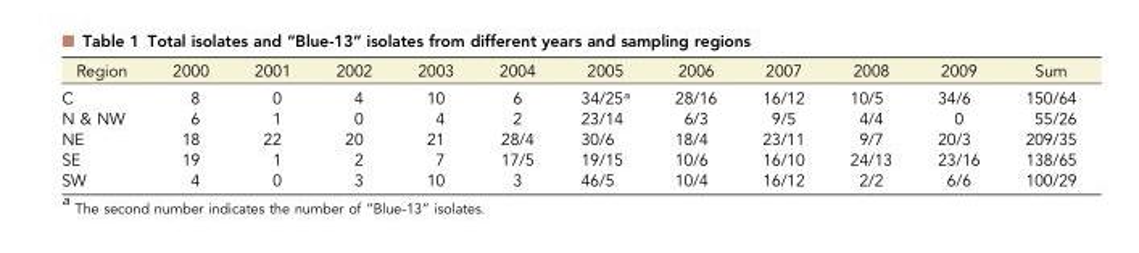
<table><thead><tr><td>Region</td><td>2000</td><td>2001</td><td>2002</td><td>2003</td><td>2004</td><td>2005</td><td>2006</td><td>2007</td><td>2008</td><td>2009</td><td>Sum</td></tr></thead><tbody><tr><td>C</td><td>8</td><td>0</td><td>4</td><td>10</td><td>6</td><td>34/25<sup>a</sup></td><td>28/16</td><td>16/12</td><td>10/5</td><td>34/6</td><td>150/64</td></tr><tr><td>N &amp; NW</td><td>6</td><td>1</td><td>0</td><td>4</td><td>2</td><td>23/14</td><td>6/3</td><td>9/5</td><td>4/4</td><td>0</td><td>55/26</td></tr><tr><td>NE</td><td>18</td><td>22</td><td>20</td><td>21</td><td>28/4</td><td>30/6</td><td>18/4</td><td>23/11</td><td>9/7</td><td>20/3</td><td>209/35</td></tr><tr><td>SE</td><td>19</td><td>1</td><td>2</td><td>7</td><td>17/5</td><td>19/15</td><td>10/6</td><td>16/10</td><td>24/13</td><td>23/16</td><td>138/65</td></tr><tr><td>SW</td><td>4</td><td>0</td><td>3</td><td>10</td><td>3</td><td>46/5</td><td>10/4</td><td>16/12</td><td>2/2</td><td>6/6</td><td>100/29</td></tr></tbody></table>